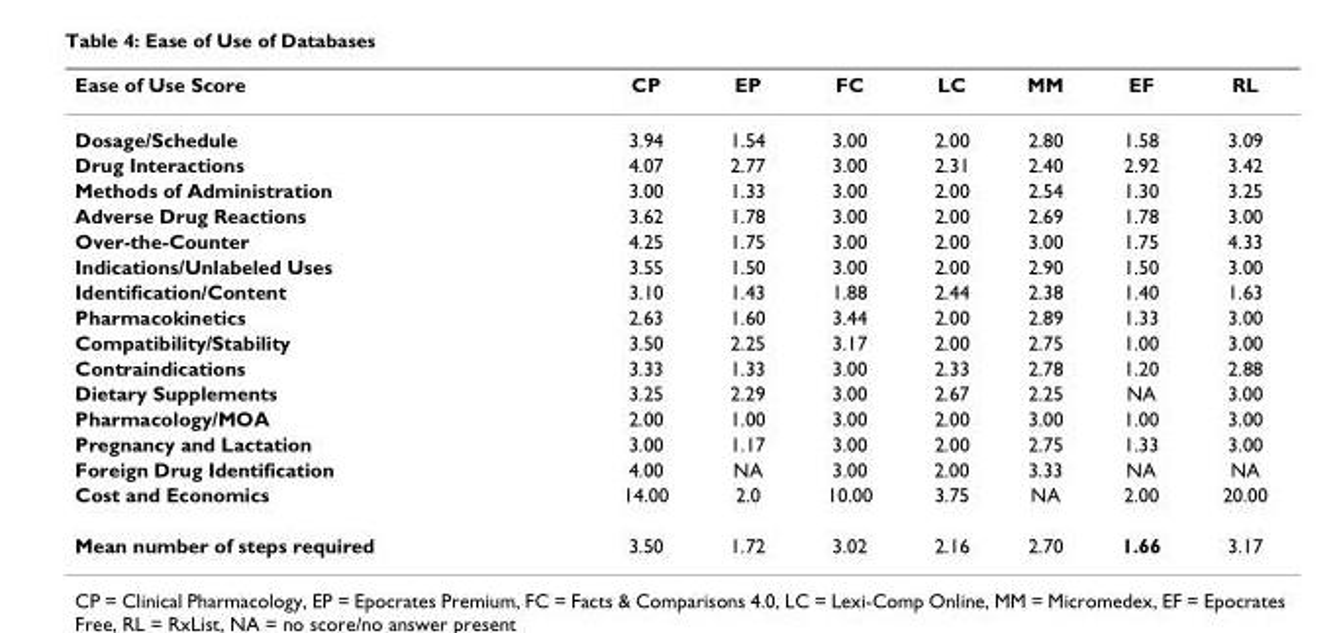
<table><thead><tr><td>Ease of Use Score</td><td>CP</td><td>EP</td><td>FC</td><td>LC</td><td>MM</td><td>EF</td><td>RL</td></tr></thead><tbody><tr><td>Dosage/Schedule</td><td>3.94</td><td>1.54</td><td>3.00</td><td>2.00</td><td>2.80</td><td>1.58</td><td>3.09</td></tr><tr><td>Drug Interactions</td><td>4.07</td><td>2.77</td><td>3.00</td><td>2.31</td><td>2.40</td><td>2.92</td><td>3.42</td></tr><tr><td>Methods of Administration</td><td>3.00</td><td>1.33</td><td>3.00</td><td>2.00</td><td>2.54</td><td>1.30</td><td>3.25</td></tr><tr><td>Adverse Drug Reactions</td><td>3.62</td><td>1.78</td><td>3.00</td><td>2.00</td><td>2.69</td><td>1.78</td><td>3.00</td></tr><tr><td>Over-the-Counter</td><td>4.25</td><td>1.75</td><td>3.00</td><td>2.00</td><td>3.00</td><td>1.75</td><td>4.33</td></tr><tr><td>Indications/Unlabeled Uses</td><td>3.55</td><td>1.50</td><td>3.00</td><td>2.00</td><td>2.90</td><td>1.50</td><td>3.00</td></tr><tr><td>Identification/Content</td><td>3.10</td><td>1.43</td><td>1.88</td><td>2.44</td><td>2.38</td><td>1.40</td><td>1.63</td></tr><tr><td>Pharmacokinetics</td><td>2.63</td><td>1.60</td><td>3.44</td><td>2.00</td><td>2.89</td><td>1.33</td><td>3.00</td></tr><tr><td>Compatibility/Stability</td><td>3.50</td><td>2.25</td><td>3.17</td><td>2.00</td><td>2.75</td><td>1.00</td><td>3.00</td></tr><tr><td>Contraindications</td><td>3.33</td><td>1.33</td><td>3.00</td><td>2.33</td><td>2.78</td><td>1.20</td><td>2.88</td></tr><tr><td>Dietary Supplements</td><td>3.25</td><td>2.29</td><td>3.00</td><td>2.67</td><td>2.25</td><td>NA</td><td>3.00</td></tr><tr><td>Pharmacology/MOA</td><td>2.00</td><td>1.00</td><td>3.00</td><td>2.00</td><td>3.00</td><td>1.00</td><td>3.00</td></tr><tr><td>Pregnancy and Lactation</td><td>3.00</td><td>1.17</td><td>3.00</td><td>2.00</td><td>2.75</td><td>1.33</td><td>3.00</td></tr><tr><td>Foreign Drug Identification</td><td>4.00</td><td>NA</td><td>3.00</td><td>2.00</td><td>3.33</td><td>NA</td><td>NA</td></tr><tr><td>Cost and Economics</td><td>14.00</td><td>2.0</td><td>10.00</td><td>3.75</td><td>NA</td><td>2.00</td><td>20.00</td></tr><tr><td>Mean number of steps required</td><td>3.50</td><td>1.72</td><td>3.02</td><td>2.16</td><td>2.70</td><td>1.66</td><td>3.17</td></tr></tbody></table>